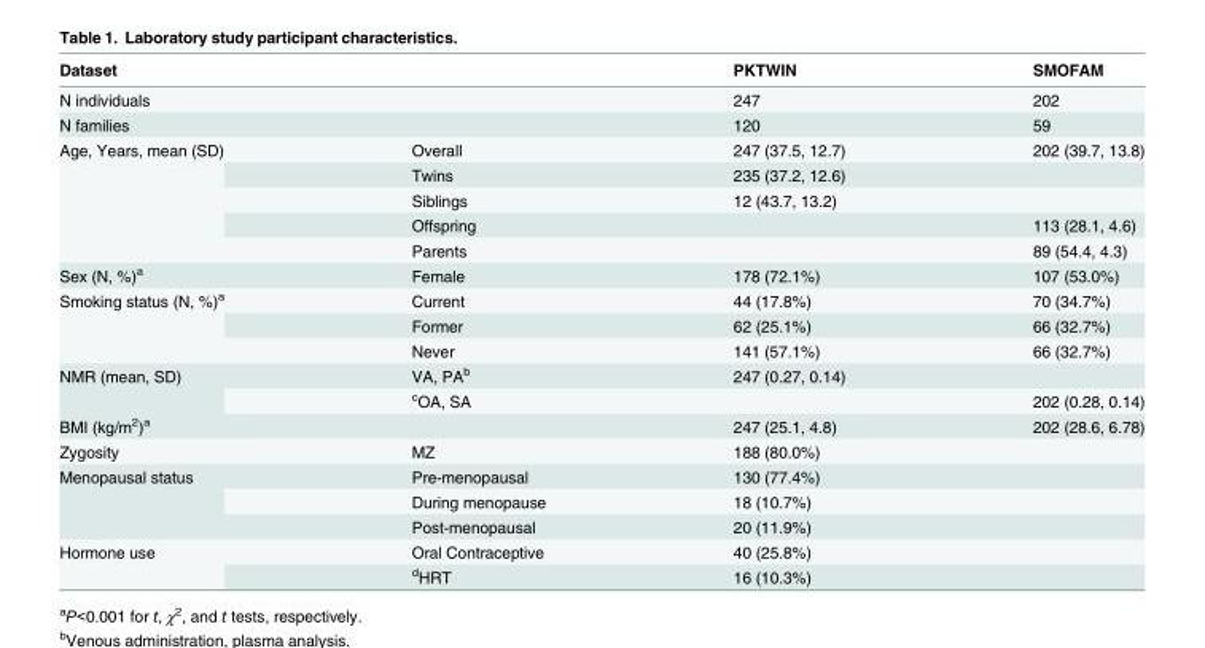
<table><thead><tr><td>Dataset</td><td></td><td>PKTWIN</td><td>SMOFAM</td></tr></thead><tbody><tr><td>N individuals</td><td></td><td>247</td><td>202</td></tr><tr><td>N families</td><td></td><td>120</td><td>59</td></tr><tr><td rowspan="5">Age, Years, mean (SD)</td><td>Overall</td><td>247 (37.5, 12.7)</td><td>202 (39.7, 13.8)</td></tr><tr><td>Twins</td><td>235 (37.2, 12.6)</td><td></td></tr><tr><td>Siblings</td><td>12 (43.7, 13.2)</td><td></td></tr><tr><td>Offspring</td><td></td><td>113 (28.1, 4.6)</td></tr><tr><td>Parents</td><td></td><td>89 (54.4, 4.3)</td></tr><tr><td>Sex (N, %)<sup>a</sup></td><td>Female</td><td>178 (72.1%)</td><td>107 (53.0%)</td></tr><tr><td rowspan="3">Smoking status (N, %)<sup>a</sup></td><td>Current</td><td>44 (17.8%)</td><td>70 (34.7%)</td></tr><tr><td>Former</td><td>62 (25.1%)</td><td>66 (32.7%)</td></tr><tr><td>Never</td><td>141 (57.1%)</td><td>66 (32.7%)</td></tr><tr><td rowspan="2">NMR (mean, SD)</td><td>VA, PA<sup>b</sup></td><td>247 (0.27, 0.14)</td><td></td></tr><tr><td><sup>c</sup>OA, SA</td><td></td><td>202 (0.28, 0.14)</td></tr><tr><td>BMI (kg/m<sup>2</sup>)<sup>a</sup></td><td></td><td>247 (25.1, 4.8)</td><td>202 (28.6, 6.78)</td></tr><tr><td>Zygosity</td><td>MZ</td><td>188 (80.0%)</td><td></td></tr><tr><td rowspan="3">Menopausal status</td><td>Pre-menopausal</td><td>130 (77.4%)</td><td></td></tr><tr><td>During menopause</td><td>18 (10.7%)</td><td></td></tr><tr><td>Post-menopausal</td><td>20 (11.9%)</td><td></td></tr><tr><td rowspan="2">Hormone use</td><td>Oral Contraceptive</td><td>40 (25.8%)</td><td></td></tr><tr><td><sup>d</sup>HRT</td><td>16 (10.3%)</td><td></td></tr></tbody></table>